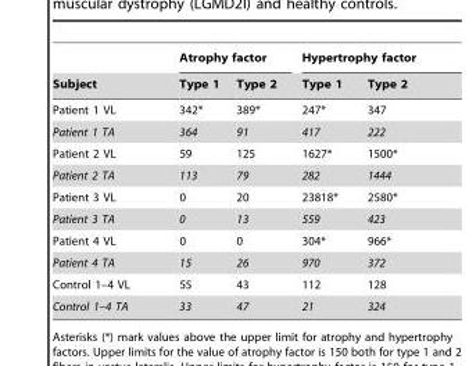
<table><thead><tr><td rowspan="2">Subject</td><td colspan="2">Atrophy factor</td><td colspan="2">Hypertrophy factor</td></tr><tr><td>Type 1</td><td>Type 2</td><td>Type 1</td><td>Type 2</td></tr></thead><tbody><tr><td>Patient 1 VL</td><td>342*</td><td>389*</td><td>247*</td><td>347</td></tr><tr><td>Patient 1 TA</td><td>364</td><td>91</td><td>417</td><td>222</td></tr><tr><td>Patient 2 VL</td><td>59</td><td>125</td><td>1627*</td><td>1500*</td></tr><tr><td>Patient 2 TA</td><td>113</td><td>79</td><td>282</td><td>1444</td></tr><tr><td>Patient 3 VL</td><td>0</td><td>20</td><td>23818*</td><td>2580*</td></tr><tr><td>Patient 3 TA</td><td>0</td><td>13</td><td>559</td><td>423</td></tr><tr><td>Patient 4 VL</td><td>0</td><td>0</td><td>304*</td><td>966*</td></tr><tr><td>Patient 4 TA</td><td>15</td><td>26</td><td>970</td><td>372</td></tr><tr><td>Control 1–4 VL</td><td>55</td><td>43</td><td>112</td><td>128</td></tr><tr><td>Control 1–4 TA</td><td>33</td><td>47</td><td>21</td><td>324</td></tr></tbody></table>